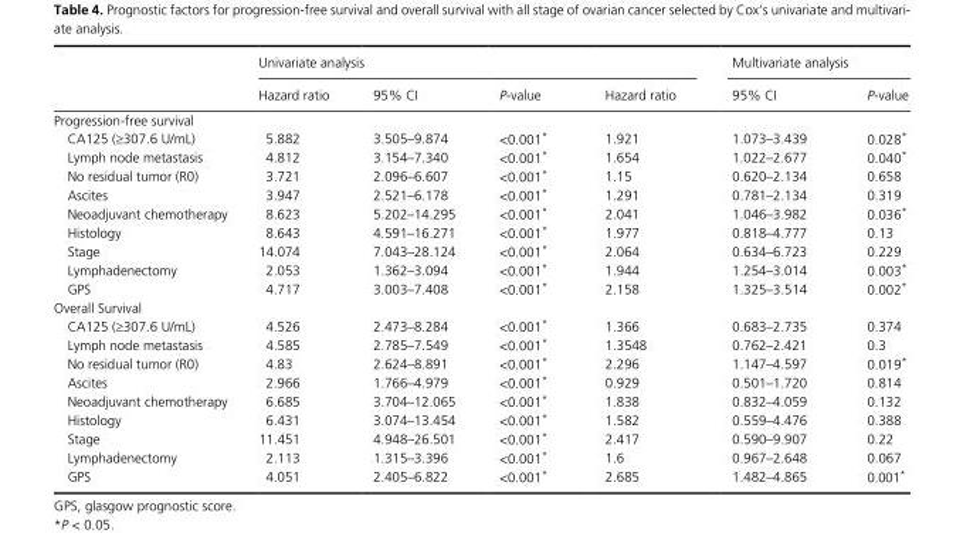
<table><thead><tr><td rowspan="2"></td><td colspan="4">Univariate analysis</td><td colspan="2">Multivariate analysis</td></tr><tr><td>Hazard ratio</td><td>95% CI</td><td>P- value</td><td>Hazard ratio</td><td>95% CI</td><td>P- value</td></tr></thead><tbody><tr><td colspan="7">Progression- free survival</td></tr><tr><td>CA125 (≥307.6 U/mL)</td><td>5.882</td><td>3.505–9.874</td><td>&lt;0.001*</td><td>1.921</td><td>1.073–3.439</td><td>0.028*</td></tr><tr><td>Lymph node metastasis</td><td>4.812</td><td>3.154–7.340</td><td>&lt;0.001*</td><td>1.654</td><td>1.022–2.677</td><td>0.040*</td></tr><tr><td>No residual tumor (R0)</td><td>3.721</td><td>2.096–6.607</td><td>&lt;0.001*</td><td>1.15</td><td>0.620–2.134</td><td>0.658</td></tr><tr><td>Ascites</td><td>3.947</td><td>2.521–6.178</td><td>&lt;0.001*</td><td>1.291</td><td>0.781–2.134</td><td>0.319</td></tr><tr><td>Neoadjuvant chemotherapy</td><td>8.623</td><td>5.202–14.295</td><td>&lt;0.001*</td><td>2.041</td><td>1.046–3.982</td><td>0.036*</td></tr><tr><td>Histology</td><td>8.643</td><td>4.591–16.271</td><td>&lt;0.001*</td><td>1.977</td><td>0.818–4.777</td><td>0.13</td></tr><tr><td>Stage</td><td>14.074</td><td>7.043–28.124</td><td>&lt;0.001*</td><td>2.064</td><td>0.634–6.723</td><td>0.229</td></tr><tr><td>Lymphadenectomy</td><td>2.053</td><td>1.362–3.094</td><td>&lt;0.001*</td><td>1.944</td><td>1.254–3.014</td><td>0.003*</td></tr><tr><td>GPS</td><td>4.717</td><td>3.003–7.408</td><td>&lt;0.001*</td><td>2.158</td><td>1.325–3.514</td><td>0.002*</td></tr><tr><td colspan="7">Overall Survival</td></tr><tr><td>CA125 (≥307.6 U/mL)</td><td>4.526</td><td>2.473–8.284</td><td>&lt;0.001*</td><td>1.366</td><td>0.683–2.735</td><td>0.374</td></tr><tr><td>Lymph node metastasis</td><td>4.585</td><td>2.785–7.549</td><td>&lt;0.001*</td><td>1.3548</td><td>0.762–2.421</td><td>0.3</td></tr><tr><td>No residual tumor (R0)</td><td>4.83</td><td>2.624–8.891</td><td>&lt;0.001*</td><td>2.296</td><td>1.147–4.597</td><td>0.019*</td></tr><tr><td>Ascites</td><td>2.966</td><td>1.766–4.979</td><td>&lt;0.001*</td><td>0.929</td><td>0.501–1.720</td><td>0.814</td></tr><tr><td>Neoadjuvant chemotherapy</td><td>6.685</td><td>3.704–12.065</td><td>&lt;0.001*</td><td>1.838</td><td>0.832–4.059</td><td>0.132</td></tr><tr><td>Histology</td><td>6.431</td><td>3.074–13.454</td><td>&lt;0.001*</td><td>1.582</td><td>0.559–4.476</td><td>0.388</td></tr><tr><td>Stage</td><td>11.451</td><td>4.948–26.501</td><td>&lt;0.001*</td><td>2.417</td><td>0.590–9.907</td><td>0.22</td></tr><tr><td>Lymphadenectomy</td><td>2.113</td><td>1.315–3.396</td><td>&lt;0.001*</td><td>1.6</td><td>0.967–2.648</td><td>0.067</td></tr><tr><td>GPS</td><td>4.051</td><td>2.405–6.822</td><td>&lt;0.001*</td><td>2.685</td><td>1.482–4.865</td><td>0.001*</td></tr></tbody></table>